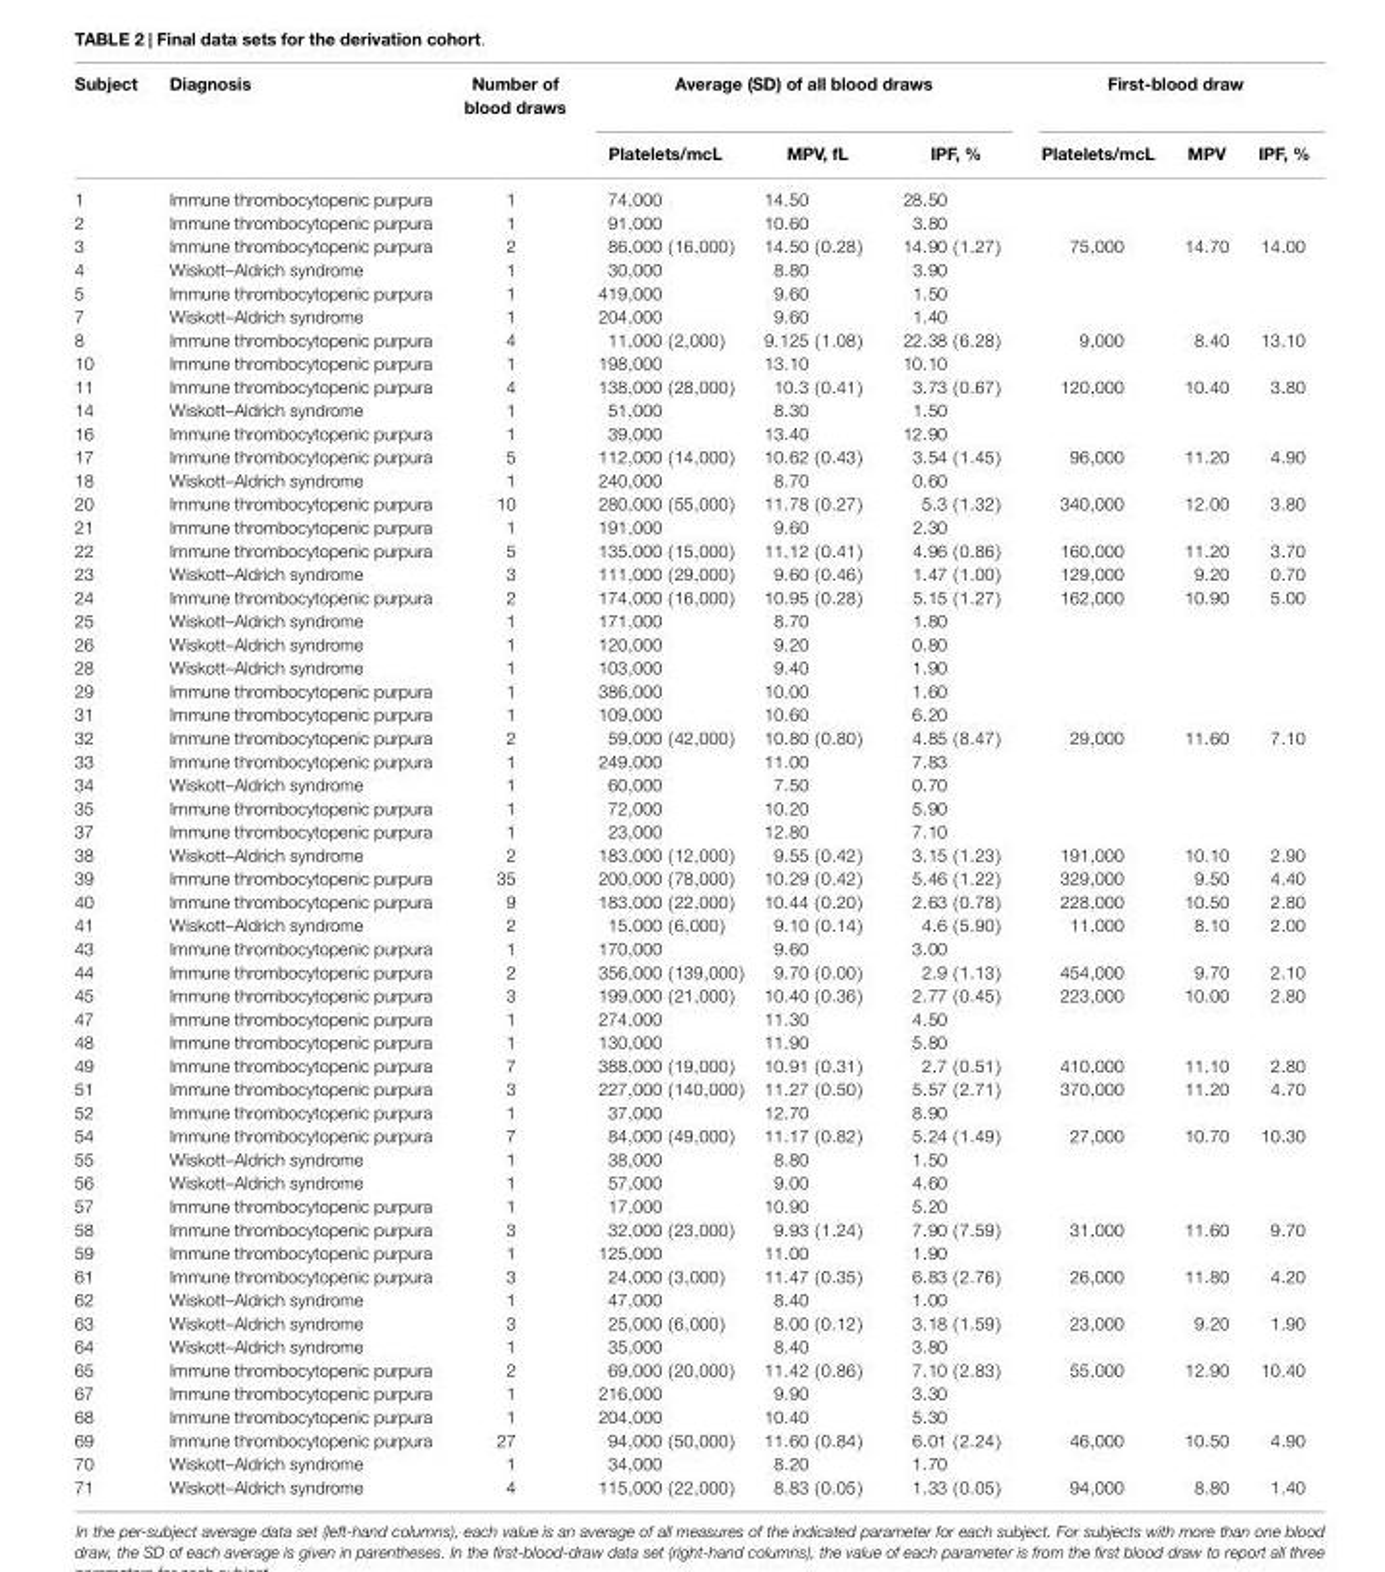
<table><thead><tr><td rowspan="2">Subject</td><td rowspan="2">Diagnosis</td><td rowspan="2">Number of blood draws</td><td colspan="3">Average (SD) of all blood draws</td><td colspan="3">First-blood draw</td></tr><tr><td>Platelets/mcL</td><td>MPV, fL</td><td>IPF, %</td><td>Platelets/mcL</td><td>MPV</td><td>IPF, %</td></tr></thead><tbody><tr><td>1</td><td>Immune thrombocytopenic purpura</td><td>1</td><td>74,000</td><td>14.50</td><td>28.50</td><td></td><td></td><td></td></tr><tr><td>2</td><td>Immune thrombocytopenic purpura</td><td>1</td><td>91,000</td><td>10.60</td><td>3.80</td><td></td><td></td><td></td></tr><tr><td>3</td><td>Immune thrombocytopenic purpura</td><td>2</td><td>86,000 (16,000)</td><td>14.50 (0.28)</td><td>14.90 (1.27)</td><td>75,000</td><td>14.70</td><td>14.00</td></tr><tr><td>4</td><td>Wiskott–Aldrich syndrome</td><td>1</td><td>30,000</td><td>8.80</td><td>3.90</td><td></td><td></td><td></td></tr><tr><td>5</td><td>Immune thrombocytopenic purpura</td><td>1</td><td>419,000</td><td>9.60</td><td>1.50</td><td></td><td></td><td></td></tr><tr><td>7</td><td>Wiskott–Aldrich syndrome</td><td>1</td><td>204,000</td><td>9.60</td><td>1.40</td><td></td><td></td><td></td></tr><tr><td>8</td><td>Immune thrombocytopenic purpura</td><td>4</td><td>11,000 (2,000)</td><td>9.125 (1.08)</td><td>22.38 (6.28)</td><td>9,000</td><td>8.40</td><td>13.10</td></tr><tr><td>10</td><td>Immune thrombocytopenic purpura</td><td>1</td><td>198,000</td><td>13.10</td><td>10.10</td><td></td><td></td><td></td></tr><tr><td>11</td><td>Immune thrombocytopenic purpura</td><td>4</td><td>138,000 (28,000)</td><td>10.3 (0.41)</td><td>3.73 (0.67)</td><td>120,000</td><td>10.40</td><td>3.80</td></tr><tr><td>14</td><td>Wiskott–Aldrich syndrome</td><td>1</td><td>51,000</td><td>8.30</td><td>1.50</td><td></td><td></td><td></td></tr><tr><td>16</td><td>Immune thrombocytopenic purpura</td><td>1</td><td>39,000</td><td>13.40</td><td>12.90</td><td></td><td></td><td></td></tr><tr><td>17</td><td>Immune thrombocytopenic purpura</td><td>5</td><td>112,000 (14,000)</td><td>10.62 (0.43)</td><td>3.54 (1.45)</td><td>96,000</td><td>11.20</td><td>4.90</td></tr><tr><td>18</td><td>Wiskott–Aldrich syndrome</td><td>1</td><td>240,000</td><td>8.70</td><td>0.60</td><td></td><td></td><td></td></tr><tr><td>20</td><td>Immune thrombocytopenic purpura</td><td>10</td><td>280,000 (55,000)</td><td>11.78 (0.27)</td><td>5.3 (1.32)</td><td>340,000</td><td>12.00</td><td>3.80</td></tr><tr><td>21</td><td>Immune thrombocytopenic purpura</td><td>1</td><td>191,000</td><td>9.60</td><td>2.30</td><td></td><td></td><td></td></tr><tr><td>22</td><td>Immune thrombocytopenic purpura</td><td>5</td><td>135,000 (15,000)</td><td>11.12 (0.41)</td><td>4.96 (0.86)</td><td>160,000</td><td>11.20</td><td>3.70</td></tr><tr><td>23</td><td>Wiskott–Aldrich syndrome</td><td>3</td><td>111,000 (29,000)</td><td>9.60 (0.46)</td><td>1.47 (1.00)</td><td>129,000</td><td>9.20</td><td>0.70</td></tr><tr><td>24</td><td>Immune thrombocytopenic purpura</td><td>2</td><td>174,000 (16,000)</td><td>10.95 (0.28)</td><td>5.15 (1.27)</td><td>162,000</td><td>10.90</td><td>5.00</td></tr><tr><td>25</td><td>Wiskott–Aldrich syndrome</td><td>1</td><td>171,000</td><td>8.70</td><td>1.80</td><td></td><td></td><td></td></tr><tr><td>26</td><td>Wiskott–Aldrich syndrome</td><td>1</td><td>120,000</td><td>9.20</td><td>0.80</td><td></td><td></td><td></td></tr><tr><td>28</td><td>Wiskott–Aldrich syndrome</td><td>1</td><td>103,000</td><td>9.40</td><td>1.90</td><td></td><td></td><td></td></tr><tr><td>29</td><td>Immune thrombocytopenic purpura</td><td>1</td><td>386,000</td><td>10.00</td><td>1.60</td><td></td><td></td><td></td></tr><tr><td>31</td><td>Immune thrombocytopenic purpura</td><td>1</td><td>109,000</td><td>10.60</td><td>6.20</td><td></td><td></td><td></td></tr><tr><td>32</td><td>Immune thrombocytopenic purpura</td><td>2</td><td>59,000 (42,000)</td><td>10.80 (0.80)</td><td>4.85 (8.47)</td><td>29,000</td><td>11.60</td><td>7.10</td></tr><tr><td>33</td><td>Immune thrombocytopenic purpura</td><td>1</td><td>249,000</td><td>11.00</td><td>7.83</td><td></td><td></td><td></td></tr><tr><td>34</td><td>Wiskott–Aldrich syndrome</td><td>1</td><td>60,000</td><td>7.50</td><td>0.70</td><td></td><td></td><td></td></tr><tr><td>35</td><td>Immune thrombocytopenic purpura</td><td>1</td><td>72,000</td><td>10.20</td><td>5.90</td><td></td><td></td><td></td></tr><tr><td>37</td><td>Immune thrombocytopenic purpura</td><td>1</td><td>23,000</td><td>12.80</td><td>7.10</td><td></td><td></td><td></td></tr><tr><td>38</td><td>Wiskott–Aldrich syndrome</td><td>2</td><td>183,000 (12,000)</td><td>9.55 (0.42)</td><td>3.15 (1.23)</td><td>191,000</td><td>10.10</td><td>2.90</td></tr><tr><td>39</td><td>Immune thrombocytopenic purpura</td><td>35</td><td>200,000 (78,000)</td><td>10.29 (0.42)</td><td>5.46 (1.22)</td><td>329,000</td><td>9.50</td><td>4.40</td></tr><tr><td>40</td><td>Immune thrombocytopenic purpura</td><td>9</td><td>183,000 (22,000)</td><td>10.44 (0.20)</td><td>2.63 (0.78)</td><td>228,000</td><td>10.50</td><td>2.80</td></tr><tr><td>41</td><td>Wiskott–Aldrich syndrome</td><td>2</td><td>15,000 (6,000)</td><td>9.10 (0.14)</td><td>4.6 (5.90)</td><td>11,000</td><td>8.10</td><td>2.00</td></tr><tr><td>43</td><td>Immune thrombocytopenic purpura</td><td>1</td><td>170,000</td><td>9.60</td><td>3.00</td><td></td><td></td><td></td></tr><tr><td>44</td><td>Immune thrombocytopenic purpura</td><td>2</td><td>356,000 (139,000)</td><td>9.70 (0.00)</td><td>2.9 (1.13)</td><td>454,000</td><td>9.70</td><td>2.10</td></tr><tr><td>45</td><td>Immune thrombocytopenic purpura</td><td>3</td><td>199,000 (21,000)</td><td>10.40 (0.36)</td><td>2.77 (0.45)</td><td>223,000</td><td>10.00</td><td>2.80</td></tr><tr><td>47</td><td>Immune thrombocytopenic purpura</td><td>1</td><td>274,000</td><td>11.30</td><td>4.50</td><td></td><td></td><td></td></tr><tr><td>48</td><td>Immune thrombocytopenic purpura</td><td>1</td><td>130,000</td><td>11.90</td><td>5.80</td><td></td><td></td><td></td></tr><tr><td>49</td><td>Immune thrombocytopenic purpura</td><td>7</td><td>388,000 (19,000)</td><td>10.91 (0.31)</td><td>2.7 (0.51)</td><td>410,000</td><td>11.10</td><td>2.80</td></tr><tr><td>51</td><td>Immune thrombocytopenic purpura</td><td>3</td><td>227,000 (140,000)</td><td>11.27 (0.50)</td><td>5.57 (2.71)</td><td>370,000</td><td>11.20</td><td>4.70</td></tr><tr><td>52</td><td>Immune thrombocytopenic purpura</td><td>1</td><td>37,000</td><td>12.70</td><td>8.90</td><td></td><td></td><td></td></tr><tr><td>54</td><td>Immune thrombocytopenic purpura</td><td>7</td><td>84,000 (49,000)</td><td>11.17 (0.82)</td><td>5.24 (1.49)</td><td>27,000</td><td>10.70</td><td>10.30</td></tr><tr><td>55</td><td>Wiskott–Aldrich syndrome</td><td>1</td><td>38,000</td><td>8.80</td><td>1.50</td><td></td><td></td><td></td></tr><tr><td>56</td><td>Wiskott–Aldrich syndrome</td><td>1</td><td>57,000</td><td>9.00</td><td>4.60</td><td></td><td></td><td></td></tr><tr><td>57</td><td>Immune thrombocytopenic purpura</td><td>1</td><td>17,000</td><td>10.90</td><td>5.20</td><td></td><td></td><td></td></tr><tr><td>58</td><td>Immune thrombocytopenic purpura</td><td>3</td><td>32,000 (23,000)</td><td>9.93 (1.24)</td><td>7.90 (7.59)</td><td>31,000</td><td>11.60</td><td>9.70</td></tr><tr><td>59</td><td>Immune thrombocytopenic purpura</td><td>1</td><td>125,000</td><td>11.00</td><td>1.90</td><td></td><td></td><td></td></tr><tr><td>61</td><td>Immune thrombocytopenic purpura</td><td>3</td><td>24,000 (3,000)</td><td>11.47 (0.35)</td><td>6.83 (2.76)</td><td>26,000</td><td>11.80</td><td>4.20</td></tr><tr><td>62</td><td>Wiskott–Aldrich syndrome</td><td>1</td><td>47,000</td><td>8.40</td><td>1.00</td><td></td><td></td><td></td></tr><tr><td>63</td><td>Wiskott–Aldrich syndrome</td><td>3</td><td>25,000 (6,000)</td><td>8.00 (0.12)</td><td>3.18 (1.59)</td><td>23,000</td><td>9.20</td><td>1.90</td></tr><tr><td>64</td><td>Wiskott–Aldrich syndrome</td><td>1</td><td>35,000</td><td>8.40</td><td>3.80</td><td></td><td></td><td></td></tr><tr><td>65</td><td>Immune thrombocytopenic purpura</td><td>2</td><td>69,000 (20,000)</td><td>11.42 (0.86)</td><td>7.10 (2.83)</td><td>55,000</td><td>12.90</td><td>10.40</td></tr><tr><td>67</td><td>Immune thrombocytopenic purpura</td><td>1</td><td>216,000</td><td>9.90</td><td>3.30</td><td></td><td></td><td></td></tr><tr><td>68</td><td>Immune thrombocytopenic purpura</td><td>1</td><td>204,000</td><td>10.40</td><td>5.30</td><td></td><td></td><td></td></tr><tr><td>69</td><td>Immune thrombocytopenic purpura</td><td>27</td><td>94,000 (50,000)</td><td>11.60 (0.84)</td><td>6.01 (2.24)</td><td>46,000</td><td>10.50</td><td>4.90</td></tr><tr><td>70</td><td>Wiskott–Aldrich syndrome</td><td>1</td><td>34,000</td><td>8.20</td><td>1.70</td><td></td><td></td><td></td></tr><tr><td>71</td><td>Wiskott–Aldrich syndrome</td><td>4</td><td>115,000 (22,000)</td><td>8.83 (0.05)</td><td>1.33 (0.05)</td><td>94,000</td><td>8.80</td><td>1.40</td></tr></tbody></table>